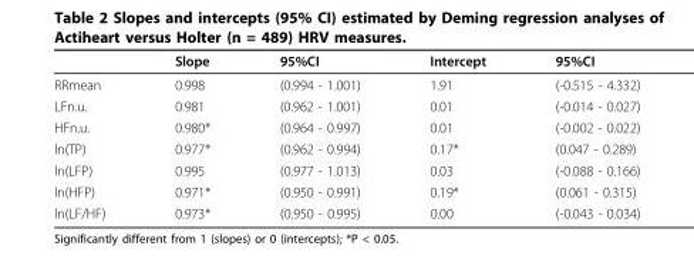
<table><thead><tr><td></td><td>Slope</td><td>95%CI</td><td>Intercept</td><td>95%CI</td></tr></thead><tbody><tr><td>RRmean</td><td>0.998</td><td>(0.994 - 1.001)</td><td>1.91</td><td>(-0.515 - 4.332)</td></tr><tr><td>LFn.u.</td><td>0.981</td><td>(0.962 - 1.001)</td><td>0.01</td><td>(-0.014 - 0.027)</td></tr><tr><td>HFn.u.</td><td>0.980*</td><td>(0.964 - 0.997)</td><td>0.01</td><td>(-0.002 - 0.022)</td></tr><tr><td>ln(TP)</td><td>0.977*</td><td>(0.962 - 0.994)</td><td>0.17*</td><td>(0.047 - 0.289)</td></tr><tr><td>ln(LFP)</td><td>0.995</td><td>(0.977 - 1.013)</td><td>0.03</td><td>(-0.088 - 0.166)</td></tr><tr><td>ln(HFP)</td><td>0.971*</td><td>(0.950 - 0.991)</td><td>0.19*</td><td>(0.061 - 0.315)</td></tr><tr><td>ln(LF/HF)</td><td>0.973*</td><td>(0.950 - 0.995)</td><td>0.00</td><td>(-0.043 - 0.034)</td></tr></tbody></table>